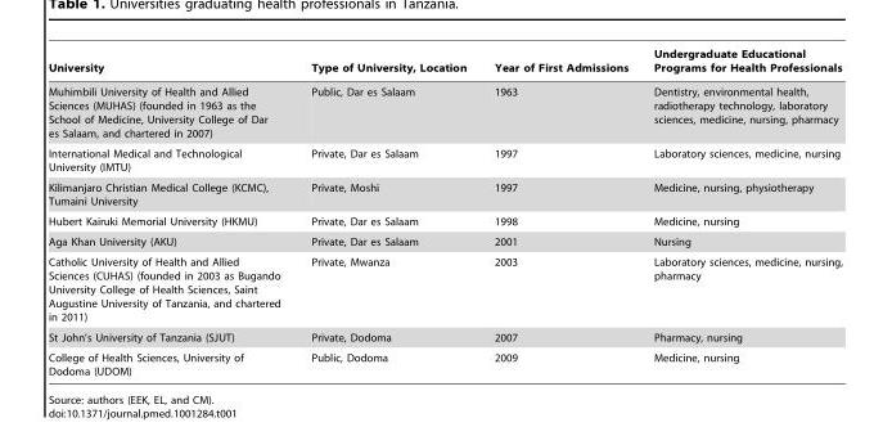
<table><thead><tr><td>University</td><td>Type of University, Location</td><td>Year of First Admissions</td><td>Undergraduate Educational Programs for Health Professionals</td></tr></thead><tbody><tr><td>Muhimbili University of Health and Allied Sciences (MUHAS) (founded in 1963 as the School of Medicine, University College of Dar es Salaam, and chartered in 2007)</td><td>Public, Dar es Salaam</td><td>1963</td><td>Dentistry, environmental health, radiotherapy technology, laboratory sciences, medicine, nursing, pharmacy</td></tr><tr><td>International Medical and Technological University (IMTU)</td><td>Private, Dar es Salaam</td><td>1997</td><td>Laboratory sciences, medicine, nursing</td></tr><tr><td>Kilimanjaro Christian Medical College (KCMC), Tumaini University</td><td>Private, Moshi</td><td>1997</td><td>Medicine, nursing, physiotherapy</td></tr><tr><td>Hubert Kairuki Memorial University (HKMU)</td><td>Private, Dar es Salaam</td><td>1998</td><td>Medicine, nursing</td></tr><tr><td>Aga Khan University (AKU)</td><td>Private, Dar es Salaam</td><td>2001</td><td>Nursing</td></tr><tr><td>Catholic University of Health and Allied Sciences (CUHAS) (founded in 2003 as Bugando University College of Health Sciences, Saint Augustine University of Tanzania, and chartered in 2011)</td><td>Private, Mwanza</td><td>2003</td><td>Laboratory sciences, medicine, nursing, pharmacy</td></tr><tr><td>St John’s University of Tanzania (SJUT)</td><td>Private, Dodoma</td><td>2007</td><td>Pharmacy, nursing</td></tr><tr><td>College of Health Sciences, University of Dodoma (UDOM)</td><td>Public, Dodoma</td><td>2009</td><td>Medicine, nursing</td></tr></tbody></table>